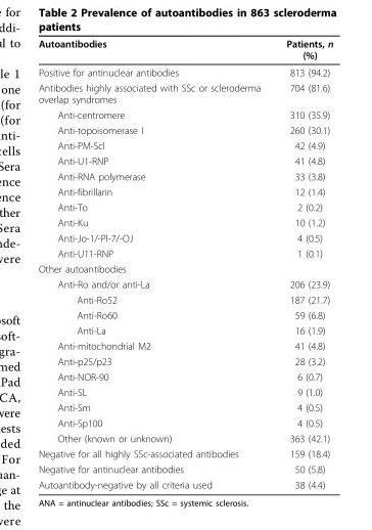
<table><thead><tr><td>Autoantibodies</td><td>Patients, n (%)</td></tr></thead><tbody><tr><td>Positive for antinuclear antibodies</td><td>813 (94.2)</td></tr><tr><td>Antibodies highly associated with SSc or scleroderma overlap syndromes</td><td>704 (81.6)</td></tr><tr><td>Anti-centromere</td><td>310 (35.9)</td></tr><tr><td>Anti-topoisomerase I</td><td>260 (30.1)</td></tr><tr><td>Anti-PM-Scl</td><td>42 (4.9)</td></tr><tr><td>Anti-U1-RNP</td><td>41 (4.8)</td></tr><tr><td>Anti-RNA polymerase</td><td>33 (3.8)</td></tr><tr><td>Anti-fibrillarin</td><td>12 (1.4)</td></tr><tr><td>Anti-To</td><td>2 (0.2)</td></tr><tr><td>Anti-Ku</td><td>10 (1.2)</td></tr><tr><td>Anti-Jo-1/-Pl-7/-OJ</td><td>4 (0.5)</td></tr><tr><td>Anti-U11-RNP</td><td>1 (0.1)</td></tr><tr><td colspan="2">Other autoantibodies</td></tr><tr><td>Anti-Ro and/or anti-La</td><td>206 (23.9)</td></tr><tr><td>Anti-Ro52</td><td>187 (21.7)</td></tr><tr><td>Anti-Ro60</td><td>59 (6.8)</td></tr><tr><td>Anti-La</td><td>16 (1.9)</td></tr><tr><td>Anti-mitochondrial M2</td><td>41 (4.8)</td></tr><tr><td>Anti-p25/p23</td><td>28 (3.2)</td></tr><tr><td>Anti-NOR-90</td><td>6 (0.7)</td></tr><tr><td>Anti-SL</td><td>9 (1.0)</td></tr><tr><td>Anti-Sm</td><td>4 (0.5)</td></tr><tr><td>Anti-Sp100</td><td>4 (0.5)</td></tr><tr><td>Other (known or unknown)</td><td>363 (42.1)</td></tr><tr><td>Negative for all highly SSc-associated antibodies</td><td>159 (18.4)</td></tr><tr><td>Negative for antinuclear antibodies</td><td>50 (5.8)</td></tr><tr><td>Autoantibody-negative by all criteria used</td><td>38 (4.4)</td></tr></tbody></table>